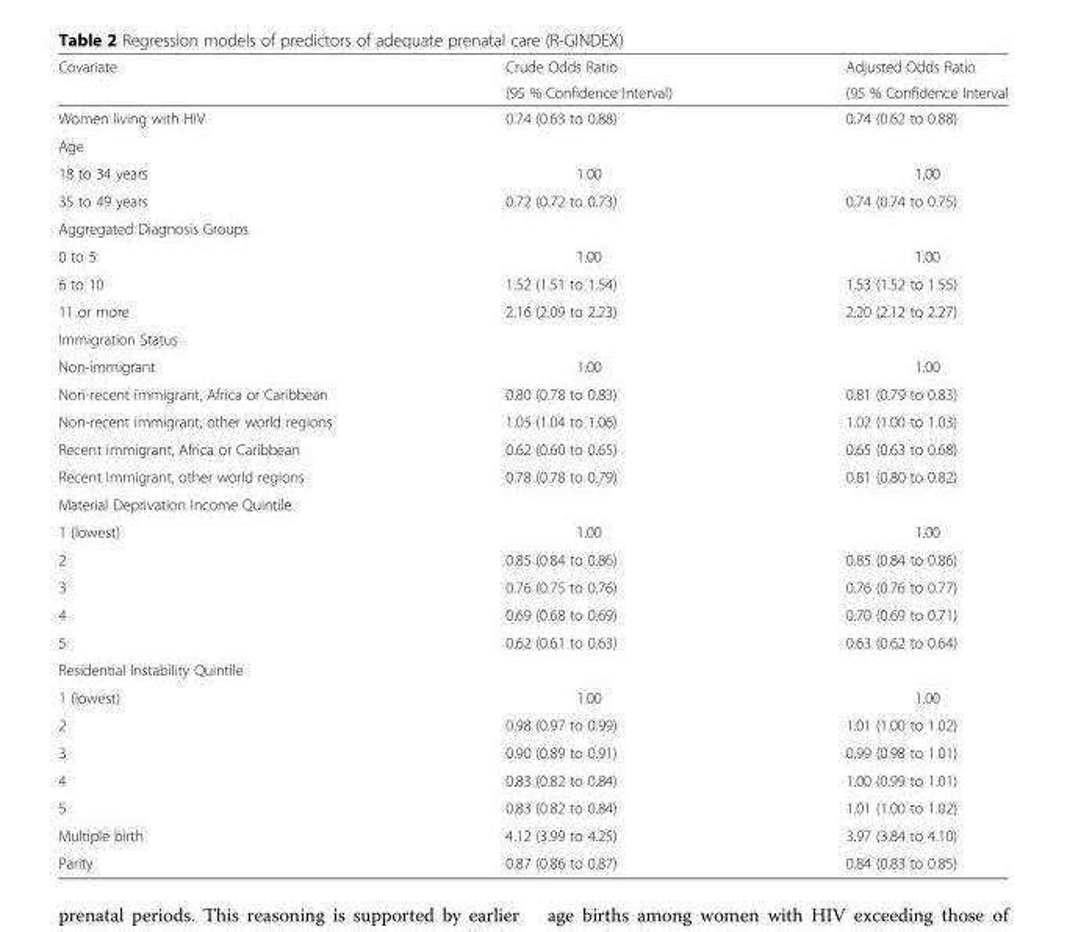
<table><thead><tr><td rowspan="2">Covariate</td><td rowspan="2">Crude Odds Ratio (95 % Confidence Interval)</td><td rowspan="2">Adjusted Odds Ratio (95 % Confidence Interval</td></tr><tr></tr></thead><tbody><tr><td>Women living with HIV</td><td>0.74 (0.63 to 0.88)</td><td>0.74 (0.62 to 0.88)</td></tr><tr><td colspan="3">Age</td></tr><tr><td>18 to 34 years</td><td>1.00</td><td>1.00</td></tr><tr><td>35 to 49 years</td><td>0.72 (0.72 to 0.73)</td><td>0.74 (0.74 to 0.75)</td></tr><tr><td colspan="3">Aggregated Diagnosis Groups</td></tr><tr><td>0 to 5</td><td>1.00</td><td>1.00</td></tr><tr><td>6 to 10</td><td>1.52 (1.51 to 1.54)</td><td>1.53 (1.52 to 1.55)</td></tr><tr><td>11 or more</td><td>2.16 (2.09 to 2.23)</td><td>2.20 (2.12 to 2.27)</td></tr><tr><td colspan="3">Immigration Status</td></tr><tr><td>Non-immigrant</td><td>1.00</td><td>1.00</td></tr><tr><td>Non-recent immigrant, Africa or Caribbean</td><td>0.80 (0.78 to 0.83)</td><td>0.81 (0.79 to 0.83)</td></tr><tr><td>Non-recent immigrant, other world regions</td><td>1.05 (1.04 to 1.06)</td><td>1.02 (1.00 to 1.03)</td></tr><tr><td>Recent immigrant, Africa or Caribbean</td><td>0.62 (0.60 to 0.65)</td><td>0.65 (0.63 to 0.68)</td></tr><tr><td>Recent immigrant, other world regions</td><td>0.78 (0.78 to 0.79)</td><td>0.81 (0.80 to 0.82)</td></tr><tr><td colspan="3">Material Deprivation Income Quintile</td></tr><tr><td>1 (lowest)</td><td>1.00</td><td>1.00</td></tr><tr><td>2</td><td>0.85 (0.84 to 0.86)</td><td>0.85 (0.84 to 0.86)</td></tr><tr><td>3</td><td>0.76 (0.75 to 0.76)</td><td>0.76 (0.76 to 0.77)</td></tr><tr><td>4</td><td>0.69 (0.68 to 0.69)</td><td>0.70 (0.69 to 0.71)</td></tr><tr><td>5</td><td>0.62 (0.61 to 0.63)</td><td>0.63 (0.62 to 0.64)</td></tr><tr><td colspan="3">Residential Instability Quintile</td></tr><tr><td>1 (lowest)</td><td>1.00</td><td>1.00</td></tr><tr><td>2</td><td>0.98 (0.97 to 0.99)</td><td>1.01 (1.00 to 1.02)</td></tr><tr><td>3</td><td>0.90 (0.89 to 0.91)</td><td>0.99 (0.98 to 1.01)</td></tr><tr><td>4</td><td>0.83 (0.82 to 0.84)</td><td>1.00 (0.99 to 1.01)</td></tr><tr><td>5</td><td>0.83 (0.82 to 0.84)</td><td>1.01 (1.00 to 1.02)</td></tr><tr><td>Multiple birth</td><td>4.12 (3.99 to 4.25)</td><td>3.97 (3.84 to 4.10)</td></tr><tr><td>Parity</td><td>0.87 (0.86 to 0.87)</td><td>0.84 (0.83 to 0.85)</td></tr></tbody></table>